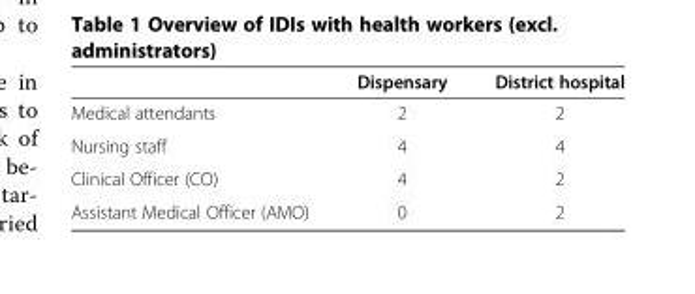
<table><thead><tr><td></td><td>Dispensary</td><td>District hospital</td></tr></thead><tbody><tr><td>Medical attendants</td><td>2</td><td>2</td></tr><tr><td>Nursing staff</td><td>4</td><td>4</td></tr><tr><td>Clinical Officer (CO)</td><td>4</td><td>2</td></tr><tr><td>Assistant Medical Officer (AMO)</td><td>0</td><td>2</td></tr></tbody></table>